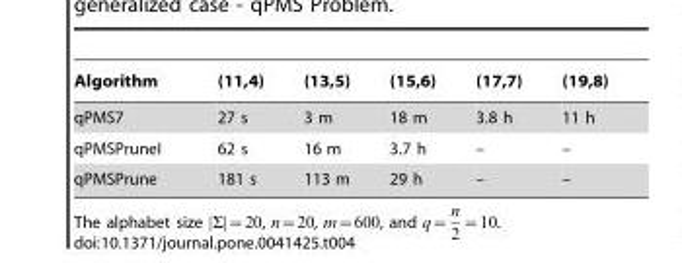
<table><thead><tr><td>Algorithm</td><td>(11,4)</td><td>(13,5)</td><td>(15,6)</td><td>(17,7)</td><td>(19,8)</td></tr></thead><tbody><tr><td>qPMS7</td><td>27 s</td><td>3 m</td><td>18 m</td><td>3.8 h</td><td>11 h</td></tr><tr><td>qPMSPruneI</td><td>62 s</td><td>16 m</td><td>3.7 h</td><td>–</td><td>–</td></tr><tr><td>qPMSPrune</td><td>181 s</td><td>113 m</td><td>29 h</td><td>–</td><td>–</td></tr></tbody></table>